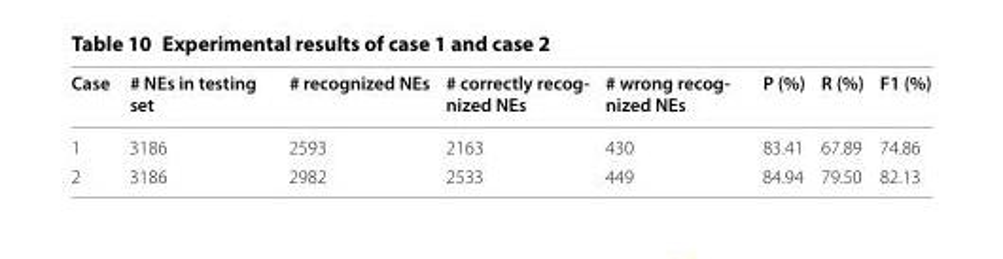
<table><thead><tr><td>Case</td><td># NEs in testing set</td><td># recognized NEs</td><td># correctly recog- nized NEs</td><td># wrong recog- nized NEs</td><td>P (%)</td><td>R (%)</td><td>F1 (%)</td></tr></thead><tbody><tr><td>1</td><td>3186</td><td>2593</td><td>2163</td><td>430</td><td>83.41</td><td>67.89</td><td>74.86</td></tr><tr><td>2</td><td>3186</td><td>2982</td><td>2533</td><td>449</td><td>84.94</td><td>79.50</td><td>82.13</td></tr></tbody></table>